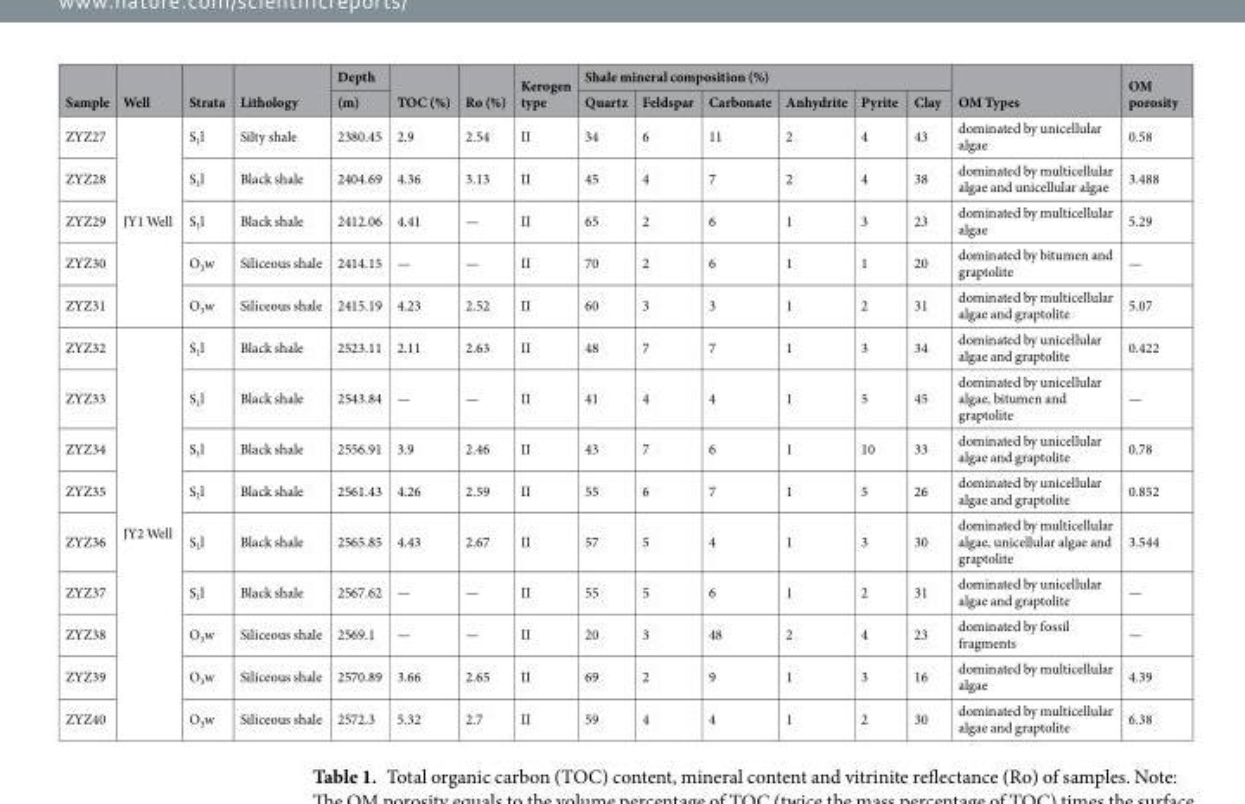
<table><thead><tr><td rowspan="2">Sample</td><td rowspan="2">Well</td><td rowspan="2">Strata</td><td rowspan="2">Lithology</td><td rowspan="2">Depth (m)</td><td rowspan="2">TOC (%)</td><td rowspan="2">Ro (%)</td><td rowspan="2">Kerogen type</td><td colspan="6">Shale mineral composition (%)</td><td rowspan="2">OM Types</td><td rowspan="2">OM porosity</td></tr><tr><td>Quartz</td><td>Feldspar</td><td>Carbonate</td><td>Anhydrite</td><td>Pyrite</td><td>Clay</td></tr></thead><tbody><tr><td>ZYZ27</td><td rowspan="5">JY1 Well</td><td>S<sub>1</sub>l</td><td>Silty shale</td><td>2380.45</td><td>2.9</td><td>2.54</td><td>II</td><td>34</td><td>6</td><td>11</td><td>2</td><td>4</td><td>43</td><td>dominated by unicellular algae</td><td>0.58</td></tr><tr><td>ZYZ28</td><td>S<sub>1</sub>l</td><td>Black shale</td><td>2404.69</td><td>4.36</td><td>3.13</td><td>II</td><td>45</td><td>4</td><td>7</td><td>2</td><td>4</td><td>38</td><td>dominated by multicellular algae and unicellular algae</td><td>3.488</td></tr><tr><td>ZYZ29</td><td>S<sub>1</sub>l</td><td>Black shale</td><td>2412.06</td><td>4.41</td><td>—</td><td>II</td><td>65</td><td>2</td><td>6</td><td>1</td><td>3</td><td>23</td><td>dominated by multicellular algae</td><td>5.29</td></tr><tr><td>ZYZ30</td><td>O<sub>3</sub>w</td><td>Siliceous shale</td><td>2414.15</td><td>—</td><td>—</td><td>II</td><td>70</td><td>2</td><td>6</td><td>1</td><td>1</td><td>20</td><td>dominated by bitumen and graptolite</td><td>—</td></tr><tr><td>ZYZ31</td><td>O<sub>3</sub>w</td><td>Siliceous shale</td><td>2415.19</td><td>4.23</td><td>2.52</td><td>II</td><td>60</td><td>3</td><td>3</td><td>1</td><td>2</td><td>31</td><td>dominated by multicellular algae and graptolite</td><td>5.07</td></tr><tr><td>ZYZ32</td><td rowspan="9">JY2 Well</td><td>S<sub>1</sub>l</td><td>Black shale</td><td>2523.11</td><td>2.11</td><td>2.63</td><td>II</td><td>48</td><td>7</td><td>7</td><td>1</td><td>3</td><td>34</td><td>dominated by unicellular algae and graptolite</td><td>0.422</td></tr><tr><td>ZYZ33</td><td>S<sub>1</sub>l</td><td>Black shale</td><td>2543.84</td><td>—</td><td>—</td><td>II</td><td>41</td><td>4</td><td>4</td><td>1</td><td>5</td><td>45</td><td>dominated by unicellular algae, bitumen and graptolite</td><td>—</td></tr><tr><td>ZYZ34</td><td>S<sub>1</sub>l</td><td>Black shale</td><td>2556.91</td><td>3.9</td><td>2.46</td><td>II</td><td>43</td><td>7</td><td>6</td><td>1</td><td>10</td><td>33</td><td>dominated by unicellular algae and graptolite</td><td>0.78</td></tr><tr><td>ZYZ35</td><td>S<sub>1</sub>l</td><td>Black shale</td><td>2561.43</td><td>4.26</td><td>2.59</td><td>II</td><td>55</td><td>6</td><td>7</td><td>1</td><td>5</td><td>26</td><td>dominated by unicellular algae and graptolite</td><td>0.852</td></tr><tr><td>ZYZ36</td><td>S<sub>1</sub>l</td><td>Black shale</td><td>2565.85</td><td>4.43</td><td>2.67</td><td>II</td><td>57</td><td>5</td><td>4</td><td>1</td><td>3</td><td>30</td><td>dominated by multicellular algae, unicellular algae and graptolite</td><td>3.544</td></tr><tr><td>ZYZ37</td><td>S<sub>1</sub>l</td><td>Black shale</td><td>2567.62</td><td>—</td><td>—</td><td>II</td><td>55</td><td>5</td><td>6</td><td>1</td><td>2</td><td>31</td><td>dominated by unicellular algae and graptolite</td><td>—</td></tr><tr><td>ZYZ38</td><td>O<sub>3</sub>w</td><td>Siliceous shale</td><td>2569.1</td><td>—</td><td>—</td><td>II</td><td>20</td><td>3</td><td>48</td><td>2</td><td>4</td><td>23</td><td>dominated by fossil fragments</td><td>—</td></tr><tr><td>ZYZ39</td><td>O<sub>3</sub>w</td><td>Siliceous shale</td><td>2570.89</td><td>3.66</td><td>2.65</td><td>II</td><td>69</td><td>2</td><td>9</td><td>1</td><td>3</td><td>16</td><td>dominated by multicellular algae</td><td>4.39</td></tr><tr><td>ZYZ40</td><td>O<sub>3</sub>w</td><td>Siliceous shale</td><td>2572.3</td><td>5.32</td><td>2.7</td><td>II</td><td>59</td><td>4</td><td>4</td><td>1</td><td>2</td><td>30</td><td>dominated by multicellular algae and graptolite</td><td>6.38</td></tr></tbody></table>